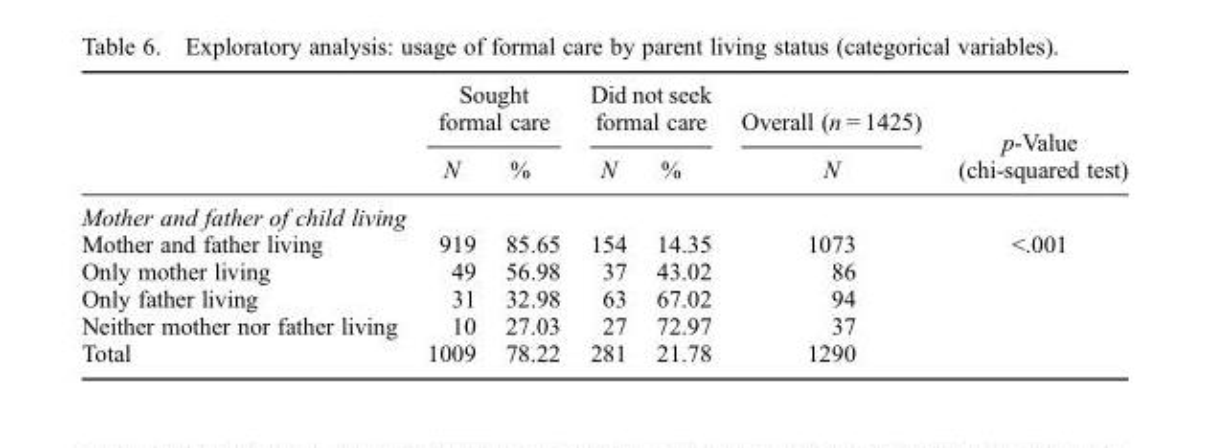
<table><thead><tr><td rowspan="2"></td><td colspan="2">Sought formal care</td><td colspan="2">Did not seek formal care</td><td rowspan="2">Overall (n = 1425) N</td><td rowspan="2">p-Value (chi-squared test)</td></tr><tr><td>N</td><td>%</td><td>N</td><td>%</td></tr></thead><tbody><tr><td colspan="7">Mother and father of child living</td></tr><tr><td>Mother and father living</td><td>919</td><td>85.65</td><td>154</td><td>14.35</td><td>1073</td><td>&lt;.001</td></tr><tr><td>Only mother living</td><td>49</td><td>56.98</td><td>37</td><td>43.02</td><td>86</td><td></td></tr><tr><td>Only father living</td><td>31</td><td>32.98</td><td>63</td><td>67.02</td><td>94</td><td></td></tr><tr><td>Neither mother nor father living</td><td>10</td><td>27.03</td><td>27</td><td>72.97</td><td>37</td><td></td></tr><tr><td>Total</td><td>1009</td><td>78.22</td><td>281</td><td>21.78</td><td>1290</td><td></td></tr></tbody></table>